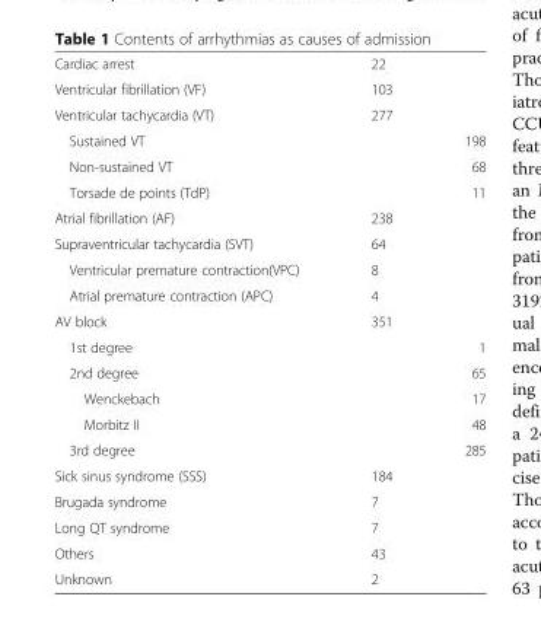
<table><tbody><tr><td>Cardiac arrest</td><td>22</td><td></td></tr><tr><td>Ventricular fibrillation (VF)</td><td>103</td><td></td></tr><tr><td>Ventricular tachycardia (VT)</td><td>277</td><td></td></tr><tr><td>Sustained VT</td><td></td><td>198</td></tr><tr><td>Non-sustained VT</td><td></td><td>68</td></tr><tr><td>Torsade de points (TdP)</td><td></td><td>11</td></tr><tr><td>Atrial fibrillation (AF)</td><td>238</td><td></td></tr><tr><td>Supraventricular tachycardia (SVT)</td><td>64</td><td></td></tr><tr><td>Ventricular premature contraction(VPC)</td><td>8</td><td></td></tr><tr><td>Atrial premature contraction (APC)</td><td>4</td><td></td></tr><tr><td>AV block</td><td>351</td><td></td></tr><tr><td>1st degree</td><td></td><td>1</td></tr><tr><td>2nd degree</td><td></td><td>65</td></tr><tr><td>Wenckebach</td><td></td><td>17</td></tr><tr><td>Morbitz II</td><td></td><td>48</td></tr><tr><td>3rd degree</td><td></td><td>285</td></tr><tr><td>Sick sinus syndrome (SSS)</td><td>184</td><td></td></tr><tr><td>Brugada syndrome</td><td>7</td><td></td></tr><tr><td>Long QT syndrome</td><td>7</td><td></td></tr><tr><td>Others</td><td>43</td><td></td></tr><tr><td>Unknown</td><td>2</td><td></td></tr></tbody></table>